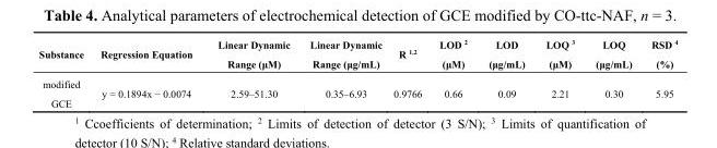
<table><thead><tr><td>Substance</td><td>Regression Equation</td><td>Linear Dynamic Range (μM)</td><td>Linear Dynamic Range (μg/mL)</td><td>R <sup>1,2</sup></td><td>LOD <sup>2</sup> (μM)</td><td>LOD (μg/mL)</td><td>LOQ <sup>3</sup> (μM)</td><td>LOQ (μg/mL)</td><td>RSD <sup>4</sup> (%)</td></tr></thead><tbody><tr><td>modified GCE</td><td>y = 0.1894x − 0.0074</td><td>2.59–51.30</td><td>0.35–6.93</td><td>0.9766</td><td>0.66</td><td>0.09</td><td>2.21</td><td>0.30</td><td>5.95</td></tr></tbody></table>